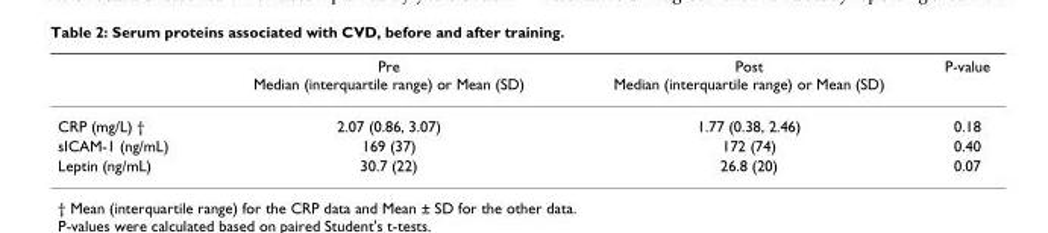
<table><thead><tr><td></td><td>Pre Median (interquartile range) or Mean (SD)</td><td>Post Median (interquartile range) or Mean (SD)</td><td>P-value</td></tr></thead><tbody><tr><td>CRP (mg/L) †</td><td>2.07 (0.86, 3.07)</td><td>1.77 (0.38, 2.46)</td><td>0.18</td></tr><tr><td>sICAM-1 (ng/mL)</td><td>169 (37)</td><td>172 (74)</td><td>0.40</td></tr><tr><td>Leptin (ng/mL)</td><td>30.7 (22)</td><td>26.8 (20)</td><td>0.07</td></tr></tbody></table>